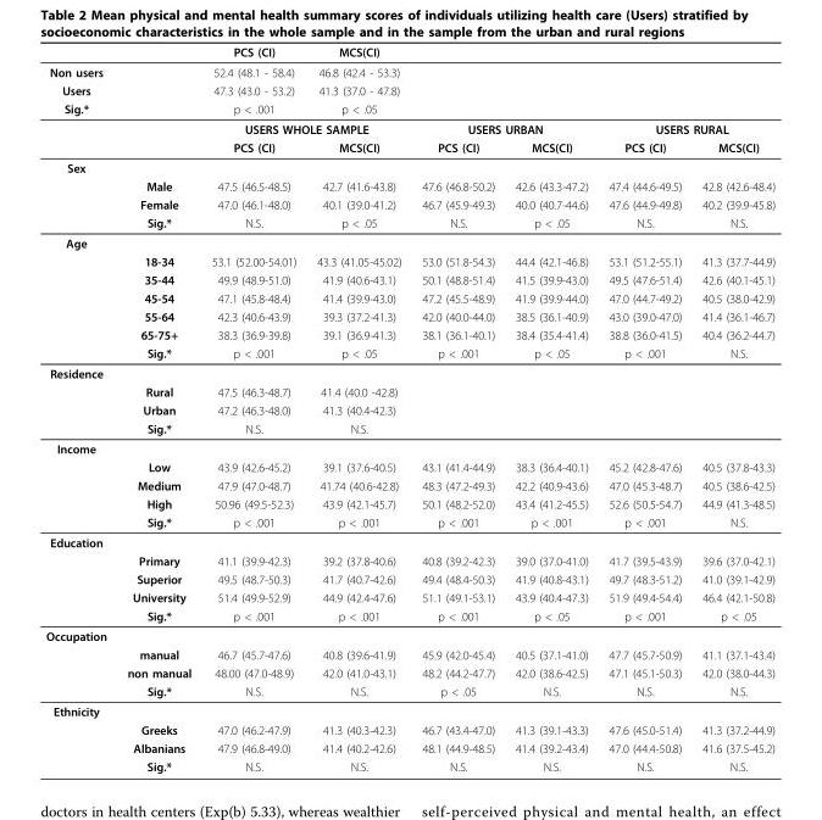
<table><thead><tr><td></td><td></td><td>PCS (CI)</td><td>MCS(CI)</td><td></td><td></td><td></td><td></td></tr></thead><tbody><tr><td>Non users</td><td></td><td>52.4 (48.1 - 58.4)</td><td>46.8 (42.4 - 53.3)</td><td></td><td></td><td></td><td></td></tr><tr><td>Users</td><td></td><td>47.3 (43.0 - 53.2)</td><td>41.3 (37.0 - 47.8)</td><td></td><td></td><td></td><td></td></tr><tr><td rowspan="3">Sig.*</td><td></td><td>p &lt; .001</td><td>p &lt; .05</td><td></td><td></td><td></td><td></td></tr><tr><td></td><td colspan="2">USERS WHOLE SAMPLE</td><td colspan="2">USERS URBAN</td><td colspan="2">USERS RURAL</td></tr><tr><td></td><td>PCS (CI)</td><td>MCS(CI)</td><td>PCS (CI)</td><td>MCS(CI)</td><td>PCS (CI)</td><td>MCS(CI)</td></tr><tr><td colspan="8">Sex</td></tr><tr><td></td><td>Male</td><td>47.5 (46.5-48.5)</td><td>42.7 (41.6-43.8)</td><td>47.6 (46.8-50.2)</td><td>42.6 (43.3-47.2)</td><td>47.4 (44.6-49.5)</td><td>42.8 (42.6-48.4)</td></tr><tr><td></td><td>Female</td><td>47.0 (46.1-48.0)</td><td>40.1 (39.0-41.2)</td><td>46.7 (45.9-49.3)</td><td>40.0 (40.7-44.6)</td><td>47.6 (44.9-49.8)</td><td>40.2 (39.9-45.8)</td></tr><tr><td></td><td>Sig.*</td><td>N.S.</td><td>p &lt; .05</td><td>N.S.</td><td>p &lt; .05</td><td>N.S.</td><td>N.S.</td></tr><tr><td colspan="8">Age</td></tr><tr><td></td><td>18-34</td><td>53.1 (52.00-54.01)</td><td>43.3 (41.05-45.02)</td><td>53.0 (51.8-54.3)</td><td>44.4 (42.1-46.8)</td><td>53.1 (51.2-55.1)</td><td>41.3 (37.7-44.9)</td></tr><tr><td></td><td>35-44</td><td>49.9 (48.9-51.0)</td><td>41.9 (40.6-43.1)</td><td>50.1 (48.8-51.4)</td><td>41.5 (39.9-43.0)</td><td>49.5 (47.6-51.4)</td><td>42.6 (40.1-45.1)</td></tr><tr><td></td><td>45-54</td><td>47.1 (45.8-48.4)</td><td>41.4 (39.9-43.0)</td><td>47.2 (45.5-48.9)</td><td>41.9 (39.9-44.0)</td><td>47.0 (44.7-49.2)</td><td>40.5 (38.0-42.9)</td></tr><tr><td></td><td>55-64</td><td>42.3 (40.6-43.9)</td><td>39.3 (37.2-41.3)</td><td>42.0 (40.0-44.0)</td><td>38.5 (36.1-40.9)</td><td>43.0 (39.0-47.0)</td><td>41.4 (36.1-46.7)</td></tr><tr><td></td><td>65-75+</td><td>38.3 (36.9-39.8)</td><td>39.1 (36.9-41.3)</td><td>38.1 (36.1-40.1)</td><td>38.4 (35.4-41.4)</td><td>38.8 (36.0-41.5)</td><td>40.4 (36.2-44.7)</td></tr><tr><td></td><td>Sig.*</td><td>p &lt; .001</td><td>p &lt; .05</td><td>p &lt; .001</td><td>p &lt; .05</td><td>p &lt; .001</td><td>N.S.</td></tr><tr><td colspan="8">Residence</td></tr><tr><td></td><td>Rural</td><td>47.5 (46.3-48.7)</td><td>41.4 (40.0 -42.8)</td><td></td><td></td><td></td><td></td></tr><tr><td></td><td>Urban</td><td>47.2 (46.3-48.0)</td><td>41.3 (40.4-42.3)</td><td></td><td></td><td></td><td></td></tr><tr><td></td><td>Sig.*</td><td>N.S.</td><td>N.S.</td><td></td><td></td><td></td><td></td></tr><tr><td colspan="8">Income</td></tr><tr><td></td><td>Low</td><td>43.9 (42.6-45.2)</td><td>39.1 (37.6-40.5)</td><td>43.1 (41.4-44.9)</td><td>38.3 (36.4-40.1)</td><td>45.2 (42.8-47.6)</td><td>40.5 (37.8-43.3)</td></tr><tr><td></td><td>Medium</td><td>47.9 (47.0-48.7)</td><td>41.74 (40.6-42.8)</td><td>48.3 (47.2-49.3)</td><td>42.2 (40.9-43.6)</td><td>47.0 (45.3-48.7)</td><td>40.5 (38.6-42.5)</td></tr><tr><td></td><td>High</td><td>50.96 (49.5-52.3)</td><td>43.9 (42.1-45.7)</td><td>50.1 (48.2-52.0)</td><td>43.4 (41.2-45.5)</td><td>52.6 (50.5-54.7)</td><td>44.9 (41.3-48.5)</td></tr><tr><td></td><td>Sig.*</td><td>p &lt; .001</td><td>p &lt; .001</td><td>p &lt; .001</td><td>p &lt; .001</td><td>p &lt; .001</td><td>N.S.</td></tr><tr><td colspan="8">Education</td></tr><tr><td></td><td>Primary</td><td>41.1 (39.9-42.3)</td><td>39.2 (37.8-40.6)</td><td>40.8 (39.2-42.3)</td><td>39.0 (37.0-41.0)</td><td>41.7 (39.5-43.9)</td><td>39.6 (37.0-42.1)</td></tr><tr><td></td><td>Superior</td><td>49.5 (48.7-50.3)</td><td>41.7 (40.7-42.6)</td><td>49.4 (48.4-50.3)</td><td>41.9 (40.8-43.1)</td><td>49.7 (48.3-51.2)</td><td>41.0 (39.1-42.9)</td></tr><tr><td></td><td>University</td><td>51.4 (49.9-52.9)</td><td>44.9 (42.4-47.6)</td><td>51.1 (49.1-53.1)</td><td>43.9 (40.4-47.3)</td><td>51.9 (49.4-54.4)</td><td>46.4 (42.1-50.8)</td></tr><tr><td></td><td>Sig.*</td><td>p &lt; .001</td><td>p &lt; .001</td><td>p &lt; .001</td><td>p &lt; .05</td><td>p &lt; .001</td><td>p &lt; .05</td></tr><tr><td colspan="8">Occupation</td></tr><tr><td></td><td>manual</td><td>46.7 (45.7-47.6)</td><td>40.8 (39.6-41.9)</td><td>45.9 (42.0-45.4)</td><td>40.5 (37.1-41.0)</td><td>47.7 (45.7-50.9)</td><td>41.1 (37.1-43.4)</td></tr><tr><td></td><td>non manual</td><td>48.00 (47.0-48.9)</td><td>42.0 (41.0-43.1)</td><td>48.2 (44.2-47.7)</td><td>42.0 (38.6-42.5)</td><td>47.1 (45.1-50.3)</td><td>42.0 (38.0-44.3)</td></tr><tr><td></td><td>Sig.*</td><td>N.S.</td><td>N.S.</td><td>p &lt; .05</td><td>N.S.</td><td>N.S.</td><td>N.S.</td></tr><tr><td colspan="8">Ethnicity</td></tr><tr><td></td><td>Greeks</td><td>47.0 (46.2-47.9)</td><td>41.3 (40.3-42.3)</td><td>46.7 (43.4-47.0)</td><td>41.3 (39.1-43.3)</td><td>47.6 (45.0-51.4)</td><td>41.3 (37.2-44.9)</td></tr><tr><td></td><td>Albanians</td><td>47.9 (46.8-49.0)</td><td>41.4 (40.2-42.6)</td><td>48.1 (44.9-48.5)</td><td>41.4 (39.2-43.4)</td><td>47.0 (44.4-50.8)</td><td>41.6 (37.5-45.2)</td></tr><tr><td></td><td>Sig.*</td><td>N.S.</td><td>N.S.</td><td>N.S.</td><td>N.S.</td><td>N.S.</td><td>N.S.</td></tr></tbody></table>